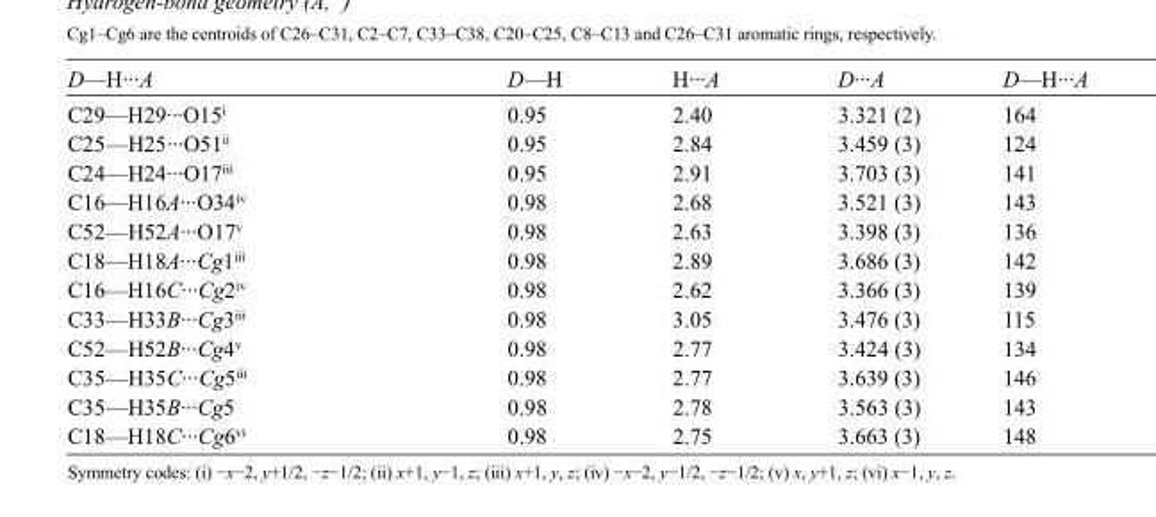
<table><tbody><tr><td>D—H···A</td><td>D—H</td><td>H···A</td><td>D···A</td><td>D—H···A</td></tr><tr><td>C29—H29···O15<sup>i</sup></td><td>0.95</td><td>2.40</td><td>3.321 (2)</td><td>164</td></tr><tr><td>C25—H25···O51<sup>ii</sup></td><td>0.95</td><td>2.84</td><td>3.459 (3)</td><td>124</td></tr><tr><td>C24—H24···O17<sup>iii</sup></td><td>0.95</td><td>2.91</td><td>3.703 (3)</td><td>141</td></tr><tr><td>C16—H16A···O34<sup>iv</sup></td><td>0.98</td><td>2.68</td><td>3.521 (3)</td><td>143</td></tr><tr><td>C52—H52A···O17<sup>v</sup></td><td>0.98</td><td>2.63</td><td>3.398 (3)</td><td>136</td></tr><tr><td>C18—H18A···Cg1<sup>iii</sup></td><td>0.98</td><td>2.89</td><td>3.686 (3)</td><td>142</td></tr><tr><td>C16—H16C···Cg2<sup>iv</sup></td><td>0.98</td><td>2.62</td><td>3.366 (3)</td><td>139</td></tr><tr><td>C33—H33B···Cg3<sup>iii</sup></td><td>0.98</td><td>3.05</td><td>3.476 (3)</td><td>115</td></tr><tr><td>C52—H52B···Cg4<sup>v</sup></td><td>0.98</td><td>2.77</td><td>3.424 (3)</td><td>134</td></tr><tr><td>C35—H35C···Cg5<sup>iii</sup></td><td>0.98</td><td>2.77</td><td>3.639 (3)</td><td>146</td></tr><tr><td>C35—H35B···Cg5</td><td>0.98</td><td>2.78</td><td>3.563 (3)</td><td>143</td></tr><tr><td>C18—H18C···Cg6<sup>vi</sup></td><td>0.98</td><td>2.75</td><td>3.663 (3)</td><td>148</td></tr></tbody></table>